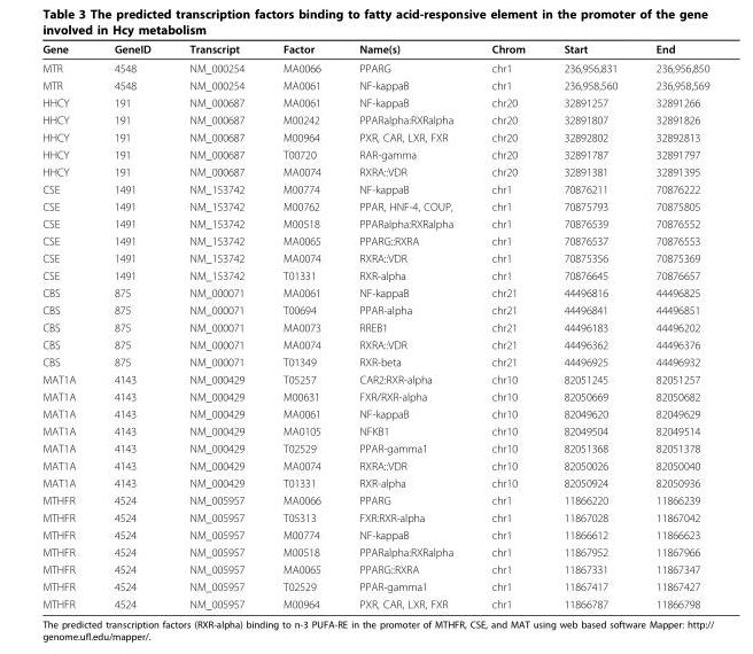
<table><thead><tr><td>Gene</td><td>GeneID</td><td>Transcript</td><td>Factor</td><td>Name(s)</td><td>Chrom</td><td>Start</td><td>End</td></tr></thead><tbody><tr><td>MTR</td><td>4548</td><td>NM_000254</td><td>MA0066</td><td>PPARG</td><td>chr1</td><td>236,956,831</td><td>236,956,850</td></tr><tr><td>MTR</td><td>4548</td><td>NM_000254</td><td>MA0061</td><td>NF-kappaB</td><td>chr1</td><td>236,958,560</td><td>236,958,569</td></tr><tr><td>HHCY</td><td>191</td><td>NM_000687</td><td>MA0061</td><td>NF-kappaB</td><td>chr20</td><td>32891257</td><td>32891266</td></tr><tr><td>HHCY</td><td>191</td><td>NM_000687</td><td>M00242</td><td>PPARalpha:RXRalpha</td><td>chr20</td><td>32891807</td><td>32891826</td></tr><tr><td>HHCY</td><td>191</td><td>NM_000687</td><td>M00964</td><td>PXR, CAR, LXR, FXR</td><td>chr20</td><td>32892802</td><td>32892813</td></tr><tr><td>HHCY</td><td>191</td><td>NM_000687</td><td>T00720</td><td>RAR-gamma</td><td>chr20</td><td>32891787</td><td>32891797</td></tr><tr><td>HHCY</td><td>191</td><td>NM_000687</td><td>MA0074</td><td>RXRA::VDR</td><td>chr20</td><td>32891381</td><td>32891395</td></tr><tr><td>CSE</td><td>1491</td><td>NM_153742</td><td>M00774</td><td>NF-kappaB</td><td>chr1</td><td>70876211</td><td>70876222</td></tr><tr><td>CSE</td><td>1491</td><td>NM_153742</td><td>M00762</td><td>PPAR, HNF-4, COUP,</td><td>chr1</td><td>70875793</td><td>70875805</td></tr><tr><td>CSE</td><td>1491</td><td>NM_153742</td><td>M00518</td><td>PPARalpha:RXRalpha</td><td>chr1</td><td>70876539</td><td>70876552</td></tr><tr><td>CSE</td><td>1491</td><td>NM_153742</td><td>MA0065</td><td>PPARG::RXRA</td><td>chr1</td><td>70876537</td><td>70876553</td></tr><tr><td>CSE</td><td>1491</td><td>NM_153742</td><td>MA0074</td><td>RXRA::VDR</td><td>chr1</td><td>70875356</td><td>70875369</td></tr><tr><td>CSE</td><td>1491</td><td>NM_153742</td><td>T01331</td><td>RXR-alpha</td><td>chr1</td><td>70876645</td><td>70876657</td></tr><tr><td>CBS</td><td>875</td><td>NM_000071</td><td>MA0061</td><td>NF-kappaB</td><td>chr21</td><td>44496816</td><td>44496825</td></tr><tr><td>CBS</td><td>875</td><td>NM_000071</td><td>T00694</td><td>PPAR-alpha</td><td>chr21</td><td>44496841</td><td>44496851</td></tr><tr><td>CBS</td><td>875</td><td>NM_000071</td><td>MA0073</td><td>RREB1</td><td>chr21</td><td>44496183</td><td>44496202</td></tr><tr><td>CBS</td><td>875</td><td>NM_000071</td><td>MA0074</td><td>RXRA::VDR</td><td>chr21</td><td>44496362</td><td>44496376</td></tr><tr><td>CBS</td><td>875</td><td>NM_000071</td><td>T01349</td><td>RXR-beta</td><td>chr21</td><td>44496925</td><td>44496932</td></tr><tr><td>MAT1A</td><td>4143</td><td>NM_000429</td><td>T05257</td><td>CAR2:RXR-alpha</td><td>chr10</td><td>82051245</td><td>82051257</td></tr><tr><td>MAT1A</td><td>4143</td><td>NM_000429</td><td>M00631</td><td>FXR/RXR-alpha</td><td>chr10</td><td>82050669</td><td>82050682</td></tr><tr><td>MAT1A</td><td>4143</td><td>NM_000429</td><td>MA0061</td><td>NF-kappaB</td><td>chr10</td><td>82049620</td><td>82049629</td></tr><tr><td>MAT1A</td><td>4143</td><td>NM_000429</td><td>MA0105</td><td>NFKB1</td><td>chr10</td><td>82049504</td><td>82049514</td></tr><tr><td>MAT1A</td><td>4143</td><td>NM_000429</td><td>T02529</td><td>PPAR-gamma1</td><td>chr10</td><td>82051368</td><td>82051378</td></tr><tr><td>MAT1A</td><td>4143</td><td>NM_000429</td><td>MA0074</td><td>RXRA::VDR</td><td>chr10</td><td>82050026</td><td>82050040</td></tr><tr><td>MAT1A</td><td>4143</td><td>NM_000429</td><td>T01331</td><td>RXR-alpha</td><td>chr10</td><td>82050924</td><td>82050936</td></tr><tr><td>MTHFR</td><td>4524</td><td>NM_005957</td><td>MA0066</td><td>PPARG</td><td>chr1</td><td>11866220</td><td>11866239</td></tr><tr><td>MTHFR</td><td>4524</td><td>NM_005957</td><td>T05313</td><td>FXR:RXR-alpha</td><td>chr1</td><td>11867028</td><td>11867042</td></tr><tr><td>MTHFR</td><td>4524</td><td>NM_005957</td><td>M00774</td><td>NF-kappaB</td><td>chr1</td><td>11866612</td><td>11866623</td></tr><tr><td>MTHFR</td><td>4524</td><td>NM_005957</td><td>M00518</td><td>PPARalpha:RXRalpha</td><td>chr1</td><td>11867952</td><td>11867966</td></tr><tr><td>MTHFR</td><td>4524</td><td>NM_005957</td><td>MA0065</td><td>PPARG::RXRA</td><td>chr1</td><td>11867331</td><td>11867347</td></tr><tr><td>MTHFR</td><td>4524</td><td>NM_005957</td><td>T02529</td><td>PPAR-gamma1</td><td>chr1</td><td>11867417</td><td>11867427</td></tr><tr><td>MTHFR</td><td>4524</td><td>NM_005957</td><td>M00964</td><td>PXR, CAR, LXR, FXR</td><td>chr1</td><td>11866787</td><td>11866798</td></tr></tbody></table>